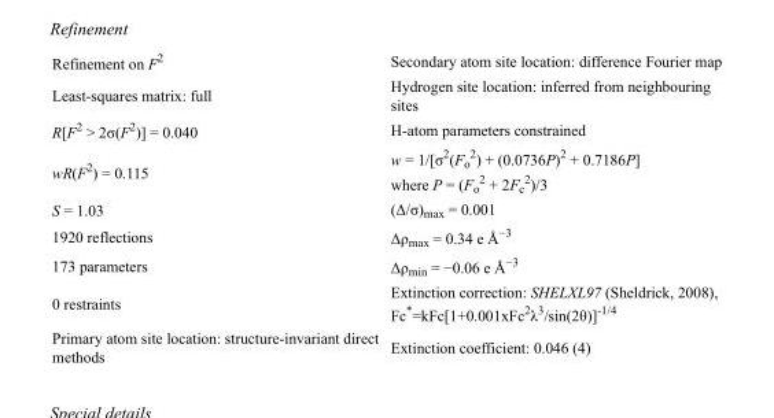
<table><tbody><tr><td>Refinement on F<sup>2</sup></td><td>Secondary atom site location: difference Fourier map</td></tr><tr><td>Least-squares matrix: full</td><td>Hydrogen site location: inferred from neighbouring sites</td></tr><tr><td>R[F<sup>2</sup> &gt; 2σ(F<sup>2</sup>)] = 0.040</td><td>H-atom parameters constrained</td></tr><tr><td>wR(F<sup>2</sup>) = 0.115</td><td>w = 1/[σ<sup>2</sup>(F<sub>o</sub> <sup>2</sup>) + (0.0736P)<sup>2</sup> + 0.7186P] where P = (F<sub>o</sub> <sup>2</sup> + 2F<sub>c</sub> <sup>2</sup>)/3</td></tr><tr><td>S = 1.03</td><td>(Δ/σ)<sub>max</sub> = 0.001</td></tr><tr><td>1920 reflections</td><td>Δρ<sub>max</sub> = 0.34 e Å<sup>−3</sup></td></tr><tr><td>173 parameters</td><td>Δρ<sub>min</sub> = −0.06 e Å<sup>−3</sup></td></tr><tr><td>0 restraints</td><td>Extinction correction: SHELXL97 (Sheldrick, 2008), Fc*=kFc[1+0.001xFc<sup>2</sup>λ<sup>3</sup>/sin(2θ)]<sup>-1/4</sup></td></tr><tr><td>Primary atom site location: structure-invariant direct methods</td><td>Extinction coefficient: 0.046 (4)</td></tr></tbody></table>